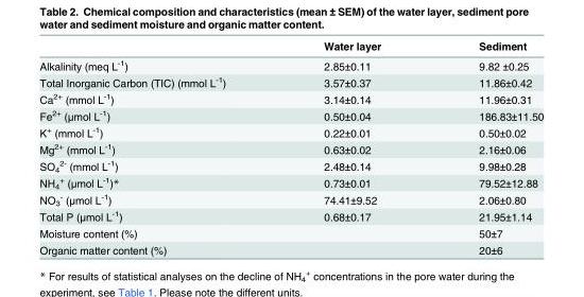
<table><thead><tr><td></td><td>Water layer</td><td>Sediment</td></tr></thead><tbody><tr><td>Alkalinity (meq L<sup>-1</sup>)</td><td>2.85±0.11</td><td>9.82 ±0.25</td></tr><tr><td>Total Inorganic Carbon (TIC) (mmol L<sup>-1</sup>)</td><td>3.57±0.37</td><td>11.86±0.42</td></tr><tr><td>Ca<sup>2+</sup> (mmol L<sup>-1</sup>)</td><td>3.14±0.14</td><td>11.96±0.31</td></tr><tr><td>Fe<sup>2+</sup> (μmol L<sup>-1</sup>)</td><td>0.50±0.04</td><td>186.83±11.50</td></tr><tr><td>K<sup>+</sup> (mmol L<sup>-1</sup>)</td><td>0.22±0.01</td><td>0.50±0.02</td></tr><tr><td>Mg<sup>2+</sup> (mmol L<sup>-1</sup>)</td><td>0.63±0.02</td><td>2.16±0.06</td></tr><tr><td>SO<sub>4</sub> <sup>2-</sup> (mmol L<sup>-1</sup>)</td><td>2.48±0.14</td><td>9.98±0.28</td></tr><tr><td>NH<sub>4</sub> <sup>+</sup> (μmol L<sup>-1</sup>)*</td><td>0.73±0.01</td><td>79.52±12.88</td></tr><tr><td>NO<sub>3</sub> <sup>-</sup> (μmol L<sup>-1</sup>)</td><td>74.41±9.52</td><td>2.06±0.80</td></tr><tr><td>Total P (μmol L<sup>-1</sup>)</td><td>0.68±0.17</td><td>21.95±1.14</td></tr><tr><td>Moisture content (%)</td><td></td><td>50±7</td></tr><tr><td>Organic matter content (%)</td><td></td><td>20±6</td></tr></tbody></table>